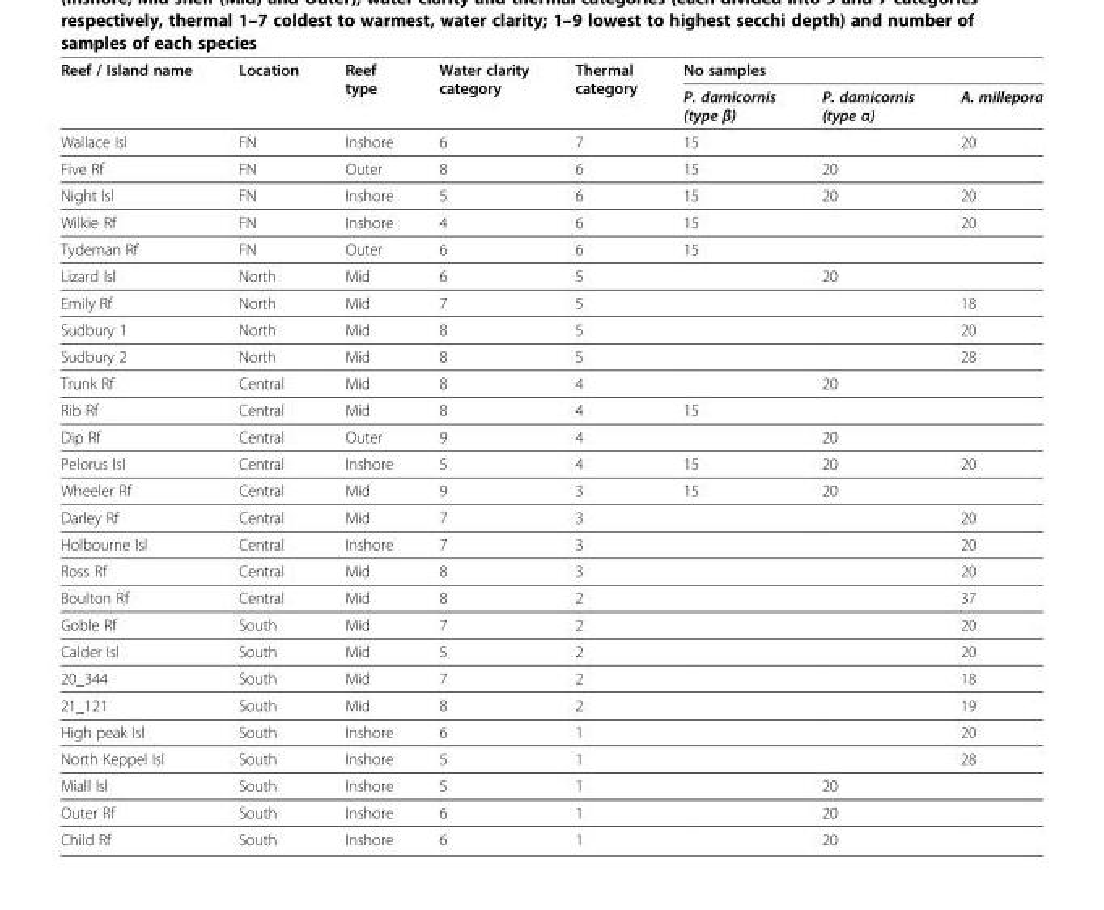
<table><thead><tr><td rowspan="2">Reef / Island name</td><td rowspan="2">Location</td><td rowspan="2">Reef type</td><td rowspan="2">Water clarity category</td><td rowspan="2">Thermal category</td><td colspan="3">No samples</td></tr><tr><td>P. damicornis (type β)</td><td>P. damicornis (type α)</td><td>A. millepora</td></tr></thead><tbody><tr><td>Wallace Isl</td><td>FN</td><td>Inshore</td><td>6</td><td>7</td><td>15</td><td></td><td>20</td></tr><tr><td>Five Rf</td><td>FN</td><td>Outer</td><td>8</td><td>6</td><td>15</td><td>20</td><td></td></tr><tr><td>Night Isl</td><td>FN</td><td>Inshore</td><td>5</td><td>6</td><td>15</td><td>20</td><td>20</td></tr><tr><td>Wilkie Rf</td><td>FN</td><td>Inshore</td><td>4</td><td>6</td><td>15</td><td></td><td>20</td></tr><tr><td>Tydeman Rf</td><td>FN</td><td>Outer</td><td>6</td><td>6</td><td>15</td><td></td><td></td></tr><tr><td>Lizard Isl</td><td>North</td><td>Mid</td><td>6</td><td>5</td><td></td><td>20</td><td></td></tr><tr><td>Emily Rf</td><td>North</td><td>Mid</td><td>7</td><td>5</td><td></td><td></td><td>18</td></tr><tr><td>Sudbury 1</td><td>North</td><td>Mid</td><td>8</td><td>5</td><td></td><td></td><td>20</td></tr><tr><td>Sudbury 2</td><td>North</td><td>Mid</td><td>8</td><td>5</td><td></td><td></td><td>28</td></tr><tr><td>Trunk Rf</td><td>Central</td><td>Mid</td><td>8</td><td>4</td><td></td><td>20</td><td></td></tr><tr><td>Rib Rf</td><td>Central</td><td>Mid</td><td>8</td><td>4</td><td>15</td><td></td><td></td></tr><tr><td>Dip Rf</td><td>Central</td><td>Outer</td><td>9</td><td>4</td><td></td><td>20</td><td></td></tr><tr><td>Pelorus Isl</td><td>Central</td><td>Inshore</td><td>5</td><td>4</td><td>15</td><td>20</td><td>20</td></tr><tr><td>Wheeler Rf</td><td>Central</td><td>Mid</td><td>9</td><td>3</td><td>15</td><td>20</td><td></td></tr><tr><td>Darley Rf</td><td>Central</td><td>Mid</td><td>7</td><td>3</td><td></td><td></td><td>20</td></tr><tr><td>Holbourne Isl</td><td>Central</td><td>Inshore</td><td>7</td><td>3</td><td></td><td></td><td>20</td></tr><tr><td>Ross Rf</td><td>Central</td><td>Mid</td><td>8</td><td>3</td><td></td><td></td><td>20</td></tr><tr><td>Boulton Rf</td><td>Central</td><td>Mid</td><td>8</td><td>2</td><td></td><td></td><td>37</td></tr><tr><td>Goble Rf</td><td>South</td><td>Mid</td><td>7</td><td>2</td><td></td><td></td><td>20</td></tr><tr><td>Calder Isl</td><td>South</td><td>Mid</td><td>5</td><td>2</td><td></td><td></td><td>20</td></tr><tr><td>20_344</td><td>South</td><td>Mid</td><td>7</td><td>2</td><td></td><td></td><td>18</td></tr><tr><td>21_121</td><td>South</td><td>Mid</td><td>8</td><td>2</td><td></td><td></td><td>19</td></tr><tr><td>High peak Isl</td><td>South</td><td>Inshore</td><td>6</td><td>1</td><td></td><td></td><td>20</td></tr><tr><td>North Keppel Isl</td><td>South</td><td>Inshore</td><td>5</td><td>1</td><td></td><td></td><td>28</td></tr><tr><td>Miall Isl</td><td>South</td><td>Inshore</td><td>5</td><td>1</td><td></td><td>20</td><td></td></tr><tr><td>Outer Rf</td><td>South</td><td>Inshore</td><td>6</td><td>1</td><td></td><td>20</td><td></td></tr><tr><td>Child Rf</td><td>South</td><td>Inshore</td><td>6</td><td>1</td><td></td><td>20</td><td></td></tr></tbody></table>